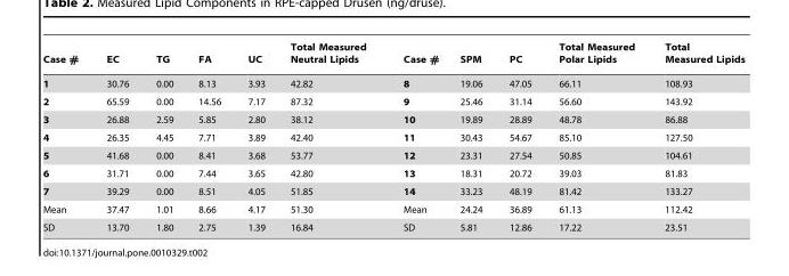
<table><thead><tr><td>Case #</td><td>EC</td><td>TG</td><td>FA</td><td>UC</td><td>Total Measured Neutral Lipids</td><td>Case #</td><td>SPM</td><td>PC</td><td>Total Measured Polar Lipids</td><td>Total Measured Lipids</td></tr></thead><tbody><tr><td>1</td><td>30.76</td><td>0.00</td><td>8.13</td><td>3.93</td><td>42.82</td><td>8</td><td>19.06</td><td>47.05</td><td>66.11</td><td>108.93</td></tr><tr><td>2</td><td>65.59</td><td>0.00</td><td>14.56</td><td>7.17</td><td>87.32</td><td>9</td><td>25.46</td><td>31.14</td><td>56.60</td><td>143.92</td></tr><tr><td>3</td><td>26.88</td><td>2.59</td><td>5.85</td><td>2.80</td><td>38.12</td><td>10</td><td>19.89</td><td>28.89</td><td>48.78</td><td>86.88</td></tr><tr><td>4</td><td>26.35</td><td>4.45</td><td>7.71</td><td>3.89</td><td>42.40</td><td>11</td><td>30.43</td><td>54.67</td><td>85.10</td><td>127.50</td></tr><tr><td>5</td><td>41.68</td><td>0.00</td><td>8.41</td><td>3.68</td><td>53.77</td><td>12</td><td>23.31</td><td>27.54</td><td>50.85</td><td>104.61</td></tr><tr><td>6</td><td>31.71</td><td>0.00</td><td>7.44</td><td>3.65</td><td>42.80</td><td>13</td><td>18.31</td><td>20.72</td><td>39.03</td><td>81.83</td></tr><tr><td>7</td><td>39.29</td><td>0.00</td><td>8.51</td><td>4.05</td><td>51.85</td><td>14</td><td>33.23</td><td>48.19</td><td>81.42</td><td>133.27</td></tr><tr><td>Mean</td><td>37.47</td><td>1.01</td><td>8.66</td><td>4.17</td><td>51.30</td><td>Mean</td><td>24.24</td><td>36.89</td><td>61.13</td><td>112.42</td></tr><tr><td>SD</td><td>13.70</td><td>1.80</td><td>2.75</td><td>1.39</td><td>16.84</td><td>SD</td><td>5.81</td><td>12.86</td><td>17.22</td><td>23.51</td></tr></tbody></table>